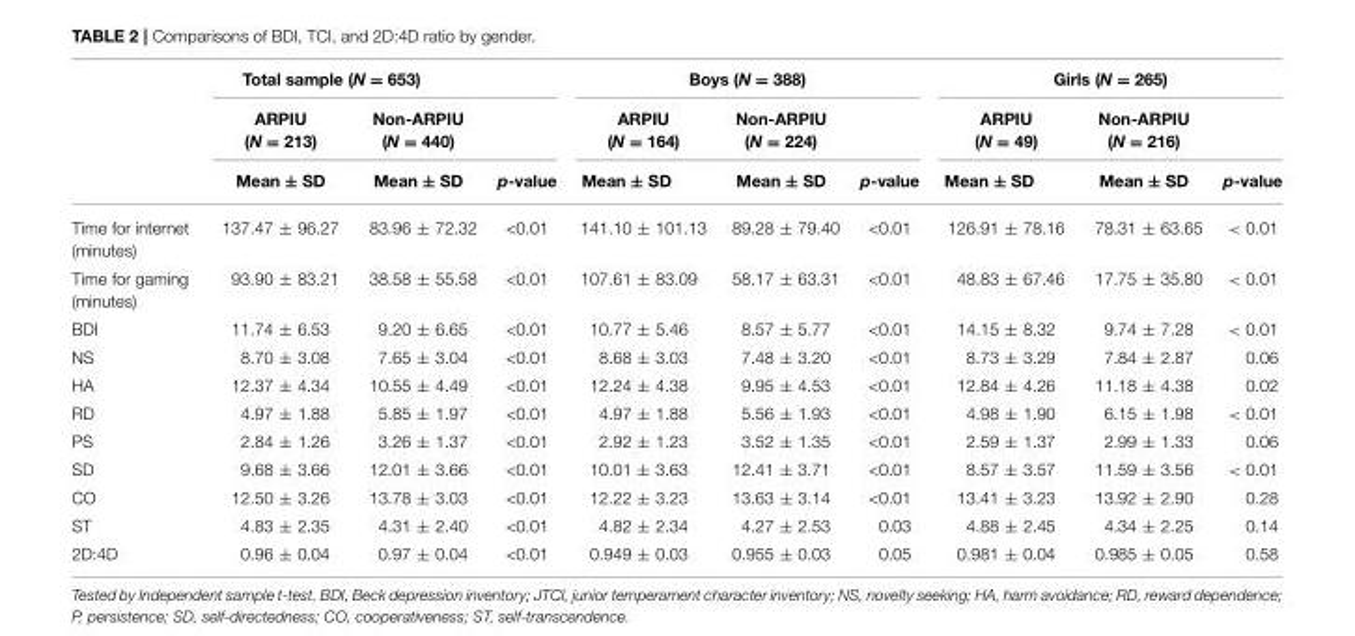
<table><thead><tr><td rowspan="3"></td><td colspan="3">Total sample (N = 653)</td><td colspan="3">Boys (N = 388)</td><td colspan="3">Girls (N = 265)</td></tr><tr><td rowspan="2">ARPIU (N = 213) Mean ± SD</td><td rowspan="2">Non-ARPIU (N = 440) Mean ± SD</td><td rowspan="2">p-value</td><td rowspan="2">ARPIU (N = 164) Mean ± SD</td><td rowspan="2">Non-ARPIU (N = 224) Mean ± SD</td><td rowspan="2">p-value</td><td rowspan="2">ARPIU (N = 49) Mean ± SD</td><td rowspan="2">Non-ARPIU (N = 216) Mean ± SD</td><td rowspan="2">p-value</td></tr><tr></tr></thead><tbody><tr><td>Time for internet (minutes)</td><td>137.47 ± 96.27</td><td>83.96 ± 72.32</td><td>&lt;0.01</td><td>141.10 ± 101.13</td><td>89.28 ± 79.40</td><td>&lt;0.01</td><td>126.91 ± 78.16</td><td>78.31 ± 63.65</td><td>&lt; 0.01</td></tr><tr><td>Time for gaming (minutes)</td><td>93.90 ± 83.21</td><td>38.58 ± 55.58</td><td>&lt;0.01</td><td>107.61 ± 83.09</td><td>58.17 ± 63.31</td><td>&lt;0.01</td><td>48.83 ± 67.46</td><td>17.75 ± 35.80</td><td>&lt; 0.01</td></tr><tr><td>BDI</td><td>11.74 ± 6.53</td><td>9.20 ± 6.65</td><td>&lt;0.01</td><td>10.77 ± 5.46</td><td>8.57 ± 5.77</td><td>&lt;0.01</td><td>14.15 ± 8.32</td><td>9.74 ± 7.28</td><td>&lt; 0.01</td></tr><tr><td>NS</td><td>8.70 ± 3.08</td><td>7.65 ± 3.04</td><td>&lt;0.01</td><td>8.68 ± 3.03</td><td>7.48 ± 3.20</td><td>&lt;0.01</td><td>8.73 ± 3.29</td><td>7.84 ± 2.87</td><td>0.06</td></tr><tr><td>HA</td><td>12.37 ± 4.34</td><td>10.55 ± 4.49</td><td>&lt;0.01</td><td>12.24 ± 4.38</td><td>9.95 ± 4.53</td><td>&lt;0.01</td><td>12.84 ± 4.26</td><td>11.18 ± 4.38</td><td>0.02</td></tr><tr><td>RD</td><td>4.97 ± 1.88</td><td>5.85 ± 1.97</td><td>&lt;0.01</td><td>4.97 ± 1.88</td><td>5.56 ± 1.93</td><td>&lt;0.01</td><td>4.98 ± 1.90</td><td>6.15 ± 1.98</td><td>&lt; 0.01</td></tr><tr><td>PS</td><td>2.84 ± 1.26</td><td>3.26 ± 1.37</td><td>&lt;0.01</td><td>2.92 ± 1.23</td><td>3.52 ± 1.35</td><td>&lt;0.01</td><td>2.59 ± 1.37</td><td>2.99 ± 1.33</td><td>0.06</td></tr><tr><td>SD</td><td>9.68 ± 3.66</td><td>12.01 ± 3.66</td><td>&lt;0.01</td><td>10.01 ± 3.63</td><td>12.41 ± 3.71</td><td>&lt;0.01</td><td>8.57 ± 3.57</td><td>11.59 ± 3.56</td><td>&lt; 0.01</td></tr><tr><td>CO</td><td>12.50 ± 3.26</td><td>13.78 ± 3.03</td><td>&lt;0.01</td><td>12.22 ± 3.23</td><td>13.63 ± 3.14</td><td>&lt;0.01</td><td>13.41 ± 3.23</td><td>13.92 ± 2.90</td><td>0.28</td></tr><tr><td>ST</td><td>4.83 ± 2.35</td><td>4.31 ± 2.40</td><td>&lt;0.01</td><td>4.82 ± 2.34</td><td>4.27 ± 2.53</td><td>0.03</td><td>4.88 ± 2.45</td><td>4.34 ± 2.25</td><td>0.14</td></tr><tr><td>2D:4D</td><td>0.96 ± 0.04</td><td>0.97 ± 0.04</td><td>&lt;0.01</td><td>0.949 ± 0.03</td><td>0.955 ± 0.03</td><td>0.05</td><td>0.981 ± 0.04</td><td>0.985 ± 0.05</td><td>0.58</td></tr></tbody></table>